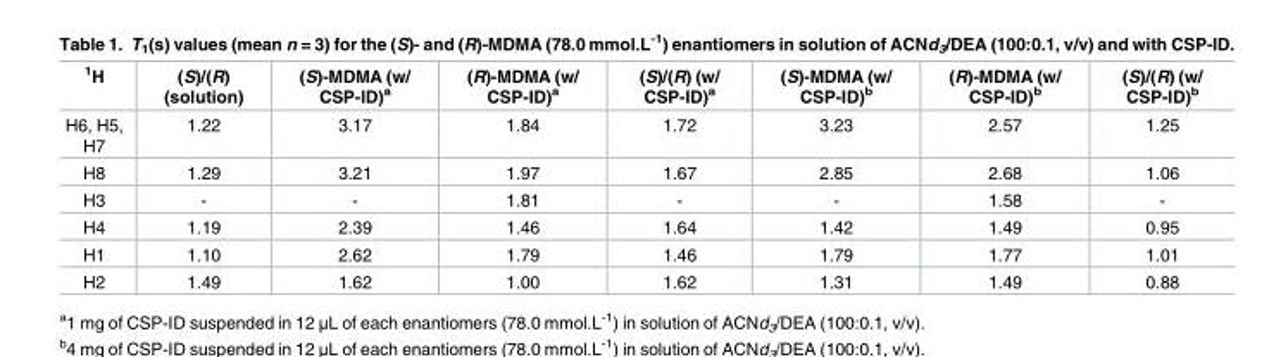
<table><thead><tr><td><sup>1</sup>H</td><td>(S)/(R) (solution)</td><td>(S)-MDMA (w/ CSP-ID)<sup>a</sup></td><td>(R)-MDMA (w/ CSP-ID)<sup>a</sup></td><td>(S)/(R) (w/ CSP-ID)<sup>a</sup></td><td>(S)-MDMA (w/ CSP-ID)<sup>b</sup></td><td>(R)-MDMA (w/ CSP-ID)<sup>b</sup></td><td>(S)/(R) (w/ CSP-ID)<sup>b</sup></td></tr></thead><tbody><tr><td>H6, H5, H7</td><td>1.22</td><td>3.17</td><td>1.84</td><td>1.72</td><td>3.23</td><td>2.57</td><td>1.25</td></tr><tr><td>H8</td><td>1.29</td><td>3.21</td><td>1.97</td><td>1.67</td><td>2.85</td><td>2.68</td><td>1.06</td></tr><tr><td>H3</td><td>-</td><td>-</td><td>1.81</td><td>-</td><td>-</td><td>1.58</td><td>-</td></tr><tr><td>H4</td><td>1.19</td><td>2.39</td><td>1.46</td><td>1.64</td><td>1.42</td><td>1.49</td><td>0.95</td></tr><tr><td>H1</td><td>1.10</td><td>2.62</td><td>1.79</td><td>1.46</td><td>1.79</td><td>1.77</td><td>1.01</td></tr><tr><td>H2</td><td>1.49</td><td>1.62</td><td>1.00</td><td>1.62</td><td>1.31</td><td>1.49</td><td>0.88</td></tr></tbody></table>